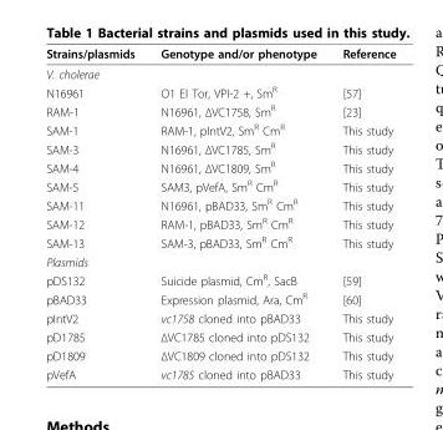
<table><thead><tr><td>Strains/plasmids</td><td>Genotype and/or phenotype</td><td>Reference</td></tr></thead><tbody><tr><td colspan="3">V. cholerae</td></tr><tr><td>N16961</td><td>O1 El Tor, VPI-2 +, Sm<sup>R</sup></td><td>[57]</td></tr><tr><td>RAM-1</td><td>N16961, ΔVC1758, Sm<sup>R</sup></td><td>[23]</td></tr><tr><td>SAM-1</td><td>RAM-1, pIntV2, Sm<sup>R</sup> Cm<sup>R</sup></td><td>This study</td></tr><tr><td>SAM-3</td><td>N16961, ΔVC1785, Sm<sup>R</sup></td><td>This study</td></tr><tr><td>SAM-4</td><td>N16961, ΔVC1809, Sm<sup>R</sup></td><td>This study</td></tr><tr><td>SAM-5</td><td>SAM3, pVefA, Sm<sup>R</sup> Cm<sup>R</sup></td><td>This study</td></tr><tr><td>SAM-11</td><td>N16961, pBAD33, Sm<sup>R</sup> Cm<sup>R</sup></td><td>This study</td></tr><tr><td>SAM-12</td><td>RAM-1, pBAD33, Sm<sup>R</sup> Cm<sup>R</sup></td><td>This study</td></tr><tr><td>SAM-13</td><td>SAM-3, pBAD33, Sm<sup>R</sup> Cm<sup>R</sup></td><td>This study</td></tr><tr><td colspan="3">Plasmids</td></tr><tr><td>pDS132</td><td>Suicide plasmid, Cm<sup>R</sup>, SacB</td><td>[59]</td></tr><tr><td>pBAD33</td><td>Expression plasmid, Ara, Cm<sup>R</sup></td><td>[60]</td></tr><tr><td>pIntV2</td><td>vc1758 cloned into pBAD33</td><td>This study</td></tr><tr><td>pD1785</td><td>ΔVC1785 cloned into pDS132</td><td>This study</td></tr><tr><td>pD1809</td><td>ΔVC1809 cloned into pDS132</td><td>This study</td></tr><tr><td>pVefA</td><td>vc1785 cloned into pBAD33</td><td>This study</td></tr></tbody></table>